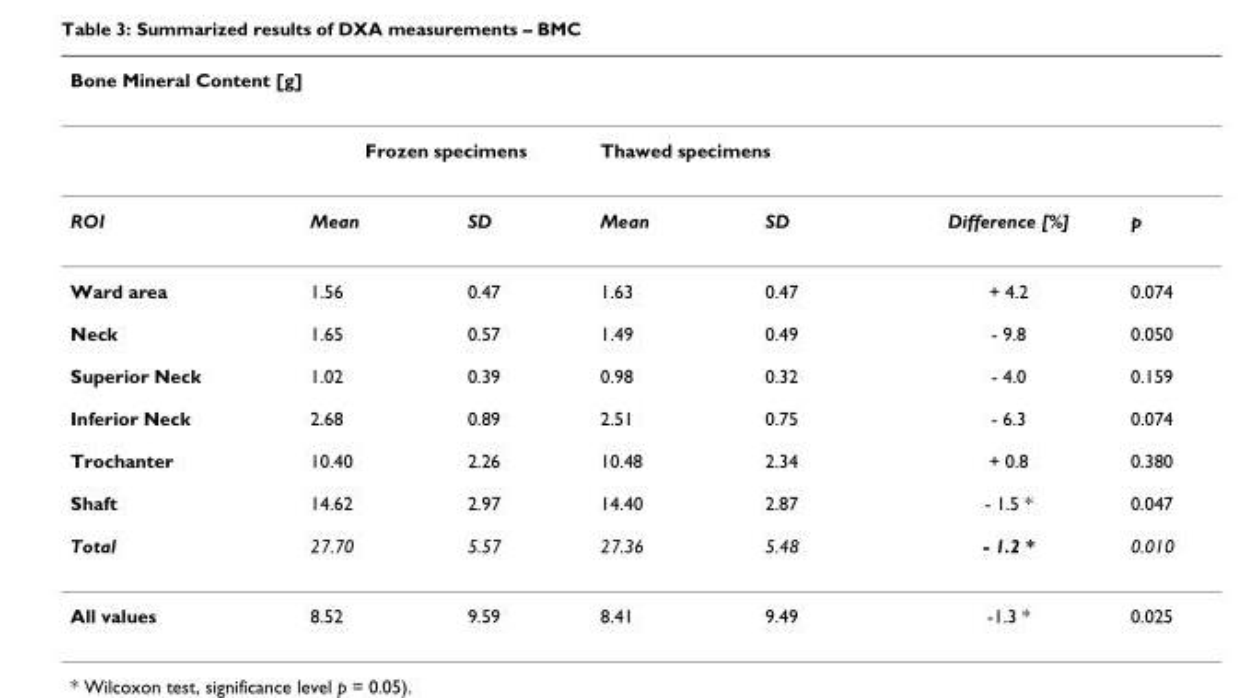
<table><thead><tr><td colspan="7">Bone Mineral Content [g]</td></tr><tr><td rowspan="2">ROI</td><td colspan="2">Frozen specimens</td><td colspan="2">Thawed specimens</td><td rowspan="2">Difference [%]</td><td rowspan="2">p</td></tr><tr><td>Mean</td><td>SD</td><td>Mean</td><td>SD</td></tr></thead><tbody><tr><td>Ward area</td><td>1.56</td><td>0.47</td><td>1.63</td><td>0.47</td><td>+ 4.2</td><td>0.074</td></tr><tr><td>Neck</td><td>1.65</td><td>0.57</td><td>1.49</td><td>0.49</td><td>- 9.8</td><td>0.050</td></tr><tr><td>Superior Neck</td><td>1.02</td><td>0.39</td><td>0.98</td><td>0.32</td><td>- 4.0</td><td>0.159</td></tr><tr><td>Inferior Neck</td><td>2.68</td><td>0.89</td><td>2.51</td><td>0.75</td><td>- 6.3</td><td>0.074</td></tr><tr><td>Trochanter</td><td>10.40</td><td>2.26</td><td>10.48</td><td>2.34</td><td>+ 0.8</td><td>0.380</td></tr><tr><td>Shaft</td><td>14.62</td><td>2.97</td><td>14.40</td><td>2.87</td><td>- 1.5 *</td><td>0.047</td></tr><tr><td>Total</td><td>27.70</td><td>5.57</td><td>27.36</td><td>5.48</td><td>- 1.2 *</td><td>0.010</td></tr><tr><td>All values</td><td>8.52</td><td>9.59</td><td>8.41</td><td>9.49</td><td>-1.3 *</td><td>0.025</td></tr></tbody></table>